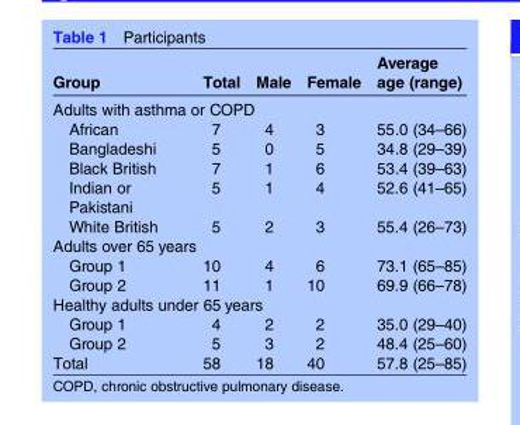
<table><thead><tr><td>Group</td><td>Total</td><td>Male</td><td>Female</td><td>Average age (range)</td></tr></thead><tbody><tr><td colspan="5">Adults with asthma or COPD</td></tr><tr><td>African</td><td>7</td><td>4</td><td>3</td><td>55.0 (34–66)</td></tr><tr><td>Bangladeshi</td><td>5</td><td>0</td><td>5</td><td>34.8 (29–39)</td></tr><tr><td>Black British</td><td>7</td><td>1</td><td>6</td><td>53.4 (39–63)</td></tr><tr><td>Indian or Pakistani</td><td>5</td><td>1</td><td>4</td><td>52.6 (41–65)</td></tr><tr><td>White British</td><td>5</td><td>2</td><td>3</td><td>55.4 (26–73)</td></tr><tr><td colspan="5">Adults over 65 years</td></tr><tr><td>Group 1</td><td>10</td><td>4</td><td>6</td><td>73.1 (65–85)</td></tr><tr><td>Group 2</td><td>11</td><td>1</td><td>10</td><td>69.9 (66–78)</td></tr><tr><td colspan="5">Healthy adults under 65 years</td></tr><tr><td>Group 1</td><td>4</td><td>2</td><td>2</td><td>35.0 (29–40)</td></tr><tr><td>Group 2</td><td>5</td><td>3</td><td>2</td><td>48.4 (25–60)</td></tr><tr><td>Total</td><td>58</td><td>18</td><td>40</td><td>57.8 (25–85)</td></tr></tbody></table>